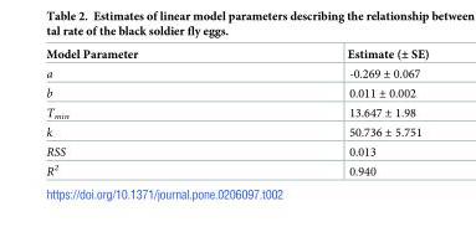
<table><thead><tr><td>Model Parameter</td><td>Estimate (± SE)</td></tr></thead><tbody><tr><td>a</td><td>-0.269 ± 0.067</td></tr><tr><td>b</td><td>0.011 ± 0.002</td></tr><tr><td>T<sub>min</sub></td><td>13.647 ± 1.98</td></tr><tr><td>k</td><td>50.736 ± 5.751</td></tr><tr><td>RSS</td><td>0.013</td></tr><tr><td>R<sup>2</sup></td><td>0.940</td></tr></tbody></table>